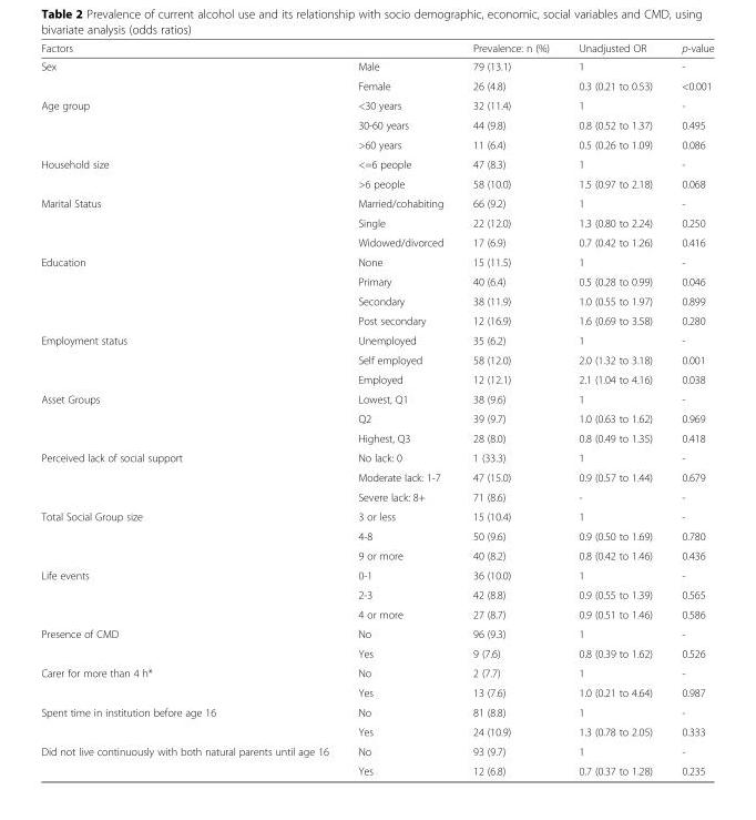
<table><thead><tr><td>Factors</td><td></td><td>Prevalence: n (%)</td><td>Unadjusted OR</td><td>p-value</td></tr></thead><tbody><tr><td rowspan="2">Sex</td><td>Male</td><td>79 (13.1)</td><td>1</td><td>-</td></tr><tr><td>Female</td><td>26 (4.8)</td><td>0.3 (0.21 to 0.53)</td><td>&lt;0.001</td></tr><tr><td rowspan="3">Age group</td><td>&lt;30 years</td><td>32 (11.4)</td><td>1</td><td>-</td></tr><tr><td>30-60 years</td><td>44 (9.8)</td><td>0.8 (0.52 to 1.37)</td><td>0.495</td></tr><tr><td>&gt;60 years</td><td>11 (6.4)</td><td>0.5 (0.26 to 1.09)</td><td>0.086</td></tr><tr><td rowspan="2">Household size</td><td>&lt;=6 people</td><td>47 (8.3)</td><td>1</td><td>-</td></tr><tr><td>&gt;6 people</td><td>58 (10.0)</td><td>1.5 (0.97 to 2.18)</td><td>0.068</td></tr><tr><td rowspan="3">Marital Status</td><td>Married/cohabiting</td><td>66 (9.2)</td><td>1</td><td>-</td></tr><tr><td>Single</td><td>22 (12.0)</td><td>1.3 (0.80 to 2.24)</td><td>0.250</td></tr><tr><td>Widowed/divorced</td><td>17 (6.9)</td><td>0.7 (0.42 to 1.26)</td><td>0.416</td></tr><tr><td rowspan="4">Education</td><td>None</td><td>15 (11.5)</td><td>1</td><td>-</td></tr><tr><td>Primary</td><td>40 (6.4)</td><td>0.5 (0.28 to 0.99)</td><td>0.046</td></tr><tr><td>Secondary</td><td>38 (11.9)</td><td>1.0 (0.55 to 1.97)</td><td>0.899</td></tr><tr><td>Post secondary</td><td>12 (16.9)</td><td>1.6 (0.69 to 3.58)</td><td>0.280</td></tr><tr><td rowspan="3">Employment status</td><td>Unemployed</td><td>35 (6.2)</td><td>1</td><td>-</td></tr><tr><td>Self employed</td><td>58 (12.0)</td><td>2.0 (1.32 to 3.18)</td><td>0.001</td></tr><tr><td>Employed</td><td>12 (12.1)</td><td>2.1 (1.04 to 4.16)</td><td>0.038</td></tr><tr><td rowspan="3">Asset Groups</td><td>Lowest, Q1</td><td>38 (9.6)</td><td>1</td><td>-</td></tr><tr><td>Q2</td><td>39 (9.7)</td><td>1.0 (0.63 to 1.62)</td><td>0.969</td></tr><tr><td>Highest, Q3</td><td>28 (8.0)</td><td>0.8 (0.49 to 1.35)</td><td>0.418</td></tr><tr><td rowspan="3">Perceived lack of social support</td><td>No lack: 0</td><td>1 (33.3)</td><td>1</td><td>-</td></tr><tr><td>Moderate lack: 1-7</td><td>47 (15.0)</td><td>0.9 (0.57 to 1.44)</td><td>0.679</td></tr><tr><td>Severe lack: 8+</td><td>71 (8.6)</td><td>-</td><td>-</td></tr><tr><td rowspan="3">Total Social Group size</td><td>3 or less</td><td>15 (10.4)</td><td>1</td><td>-</td></tr><tr><td>4-8</td><td>50 (9.6)</td><td>0.9 (0.50 to 1.69)</td><td>0.780</td></tr><tr><td>9 or more</td><td>40 (8.2)</td><td>0.8 (0.42 to 1.46)</td><td>0.436</td></tr><tr><td rowspan="3">Life events</td><td>0-1</td><td>36 (10.0)</td><td>1</td><td>-</td></tr><tr><td>2-3</td><td>42 (8.8)</td><td>0.9 (0.55 to 1.39)</td><td>0.565</td></tr><tr><td>4 or more</td><td>27 (8.7)</td><td>0.9 (0.51 to 1.46)</td><td>0.586</td></tr><tr><td rowspan="2">Presence of CMD</td><td>No</td><td>96 (9.3)</td><td>1</td><td>-</td></tr><tr><td>Yes</td><td>9 (7.6)</td><td>0.8 (0.39 to 1.62)</td><td>0.526</td></tr><tr><td rowspan="2">Carer for more than 4 h*</td><td>No</td><td>2 (7.7)</td><td>1</td><td>-</td></tr><tr><td>Yes</td><td>13 (7.6)</td><td>1.0 (0.21 to 4.64)</td><td>0.987</td></tr><tr><td rowspan="2">Spent time in institution before age 16</td><td>No</td><td>81 (8.8)</td><td>1</td><td>-</td></tr><tr><td>Yes</td><td>24 (10.9)</td><td>1.3 (0.78 to 2.05)</td><td>0.333</td></tr><tr><td rowspan="2">Did not live continuously with both natural parents until age 16</td><td>No</td><td>93 (9.7)</td><td>1</td><td>-</td></tr><tr><td>Yes</td><td>12 (6.8)</td><td>0.7 (0.37 to 1.28)</td><td>0.235</td></tr></tbody></table>